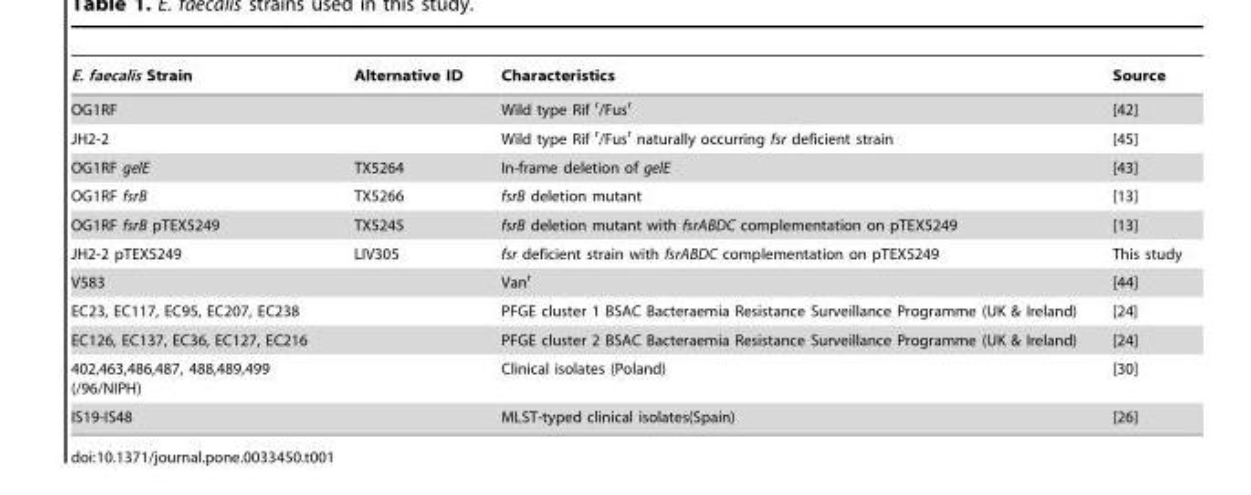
<table><thead><tr><td>E. faecalis Strain</td><td>Alternative ID</td><td>Characteristics</td><td>Source</td></tr></thead><tbody><tr><td>OG1RF</td><td></td><td>Wild type Rif <sup>r</sup>/Fus<sup>r</sup></td><td>[42]</td></tr><tr><td>JH2-2</td><td></td><td>Wild type Rif <sup>r</sup>/Fus<sup>r</sup> naturally occurring fsr deficient strain</td><td>[45]</td></tr><tr><td>OG1RF gelE</td><td>TX5264</td><td>In-frame deletion of gelE</td><td>[43]</td></tr><tr><td>OG1RF fsrB</td><td>TX5266</td><td>fsrB deletion mutant</td><td>[13]</td></tr><tr><td>OG1RF fsrB pTEX5249</td><td>TX5245</td><td>fsrB deletion mutant with fsrABDC complementation on pTEX5249</td><td>[13]</td></tr><tr><td>JH2-2 pTEX5249</td><td>LIV305</td><td>fsr deficient strain with fsrABDC complementation on pTEX5249</td><td>This study</td></tr><tr><td>V583</td><td></td><td>Van<sup>r</sup></td><td>[44]</td></tr><tr><td>EC23, EC117, EC95, EC207, EC238</td><td></td><td>PFGE cluster 1 BSAC Bacteraemia Resistance Surveillance Programme (UK &amp; Ireland)</td><td>[24]</td></tr><tr><td>EC126, EC137, EC36, EC127, EC216</td><td></td><td>PFGE cluster 2 BSAC Bacteraemia Resistance Surveillance Programme (UK &amp; Ireland)</td><td>[24]</td></tr><tr><td>402,463,486,487, 488,489,499 (/96/NIPH)</td><td></td><td>Clinical isolates (Poland)</td><td>[30]</td></tr><tr><td>IS19-IS48</td><td></td><td>MLST-typed clinical isolates(Spain)</td><td>[26]</td></tr></tbody></table>